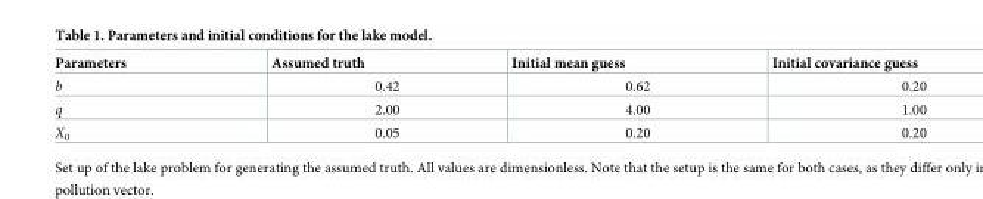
<table><thead><tr><td>Parameters</td><td>Assumed truth</td><td>Initial mean guess</td><td>Initial covariance guess</td></tr></thead><tbody><tr><td>b</td><td>0.42</td><td>0.62</td><td>0.20</td></tr><tr><td>q</td><td>2.00</td><td>4.00</td><td>1.00</td></tr><tr><td>X<sub>0</sub></td><td>0.05</td><td>0.20</td><td>0.20</td></tr></tbody></table>